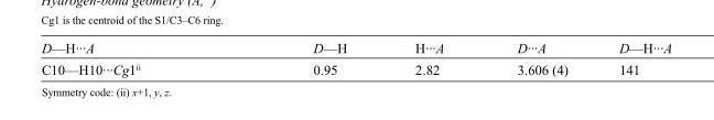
<table><tbody><tr><td>D—H···A</td><td>D—H</td><td>H···A</td><td>D···A</td><td>D—H···A</td></tr><tr><td>C10—H10···Cg1<sup>ii</sup></td><td>0.95</td><td>2.82</td><td>3.606 (4)</td><td>141</td></tr></tbody></table>